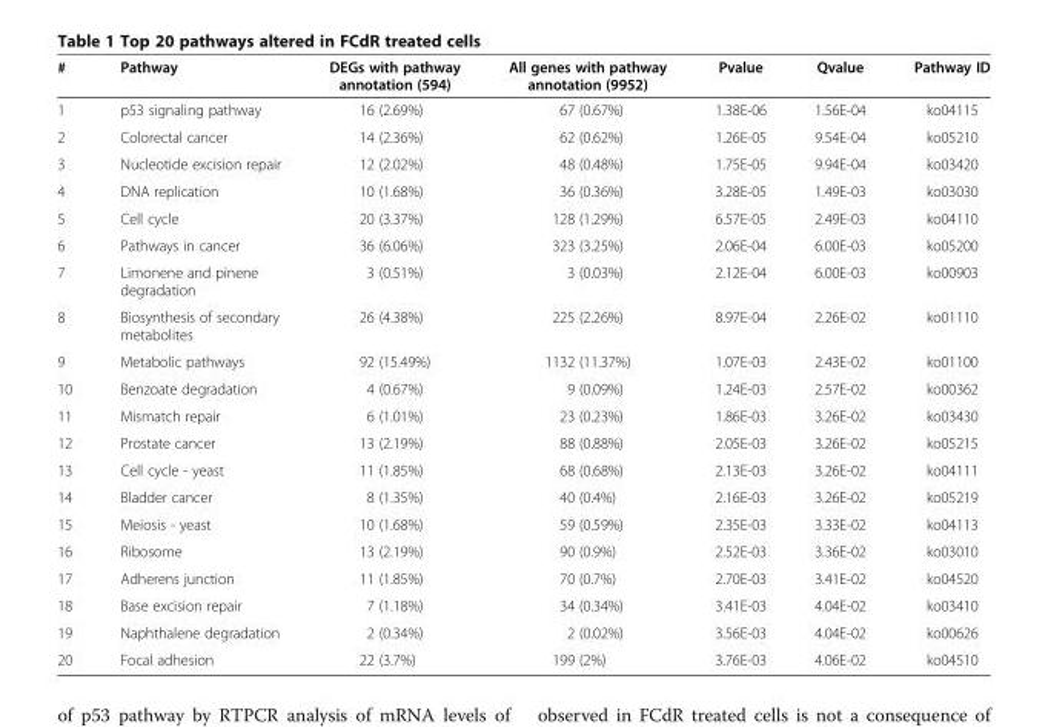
<table><thead><tr><td>#</td><td>Pathway</td><td>DEGs with pathway annotation (594)</td><td>All genes with pathway annotation (9952)</td><td>Pvalue</td><td>Qvalue</td><td>Pathway ID</td></tr></thead><tbody><tr><td>1</td><td>p53 signaling pathway</td><td>16 (2.69%)</td><td>67 (0.67%)</td><td>1.38E-06</td><td>1.56E-04</td><td>ko04115</td></tr><tr><td>2</td><td>Colorectal cancer</td><td>14 (2.36%)</td><td>62 (0.62%)</td><td>1.26E-05</td><td>9.54E-04</td><td>ko05210</td></tr><tr><td>3</td><td>Nucleotide excision repair</td><td>12 (2.02%)</td><td>48 (0.48%)</td><td>1.75E-05</td><td>9.94E-04</td><td>ko03420</td></tr><tr><td>4</td><td>DNA replication</td><td>10 (1.68%)</td><td>36 (0.36%)</td><td>3.28E-05</td><td>1.49E-03</td><td>ko03030</td></tr><tr><td>5</td><td>Cell cycle</td><td>20 (3.37%)</td><td>128 (1.29%)</td><td>6.57E-05</td><td>2.49E-03</td><td>ko04110</td></tr><tr><td>6</td><td>Pathways in cancer</td><td>36 (6.06%)</td><td>323 (3.25%)</td><td>2.06E-04</td><td>6.00E-03</td><td>ko05200</td></tr><tr><td>7</td><td>Limonene and pinene degradation</td><td>3 (0.51%)</td><td>3 (0.03%)</td><td>2.12E-04</td><td>6.00E-03</td><td>ko00903</td></tr><tr><td>8</td><td>Biosynthesis of secondary metabolites</td><td>26 (4.38%)</td><td>225 (2.26%)</td><td>8.97E-04</td><td>2.26E-02</td><td>ko01110</td></tr><tr><td>9</td><td>Metabolic pathways</td><td>92 (15.49%)</td><td>1132 (11.37%)</td><td>1.07E-03</td><td>2.43E-02</td><td>ko01100</td></tr><tr><td>10</td><td>Benzoate degradation</td><td>4 (0.67%)</td><td>9 (0.09%)</td><td>1.24E-03</td><td>2.57E-02</td><td>ko00362</td></tr><tr><td>11</td><td>Mismatch repair</td><td>6 (1.01%)</td><td>23 (0.23%)</td><td>1.86E-03</td><td>3.26E-02</td><td>ko03430</td></tr><tr><td>12</td><td>Prostate cancer</td><td>13 (2.19%)</td><td>88 (0.88%)</td><td>2.05E-03</td><td>3.26E-02</td><td>ko05215</td></tr><tr><td>13</td><td>Cell cycle - yeast</td><td>11 (1.85%)</td><td>68 (0.68%)</td><td>2.13E-03</td><td>3.26E-02</td><td>ko04111</td></tr><tr><td>14</td><td>Bladder cancer</td><td>8 (1.35%)</td><td>40 (0.4%)</td><td>2.16E-03</td><td>3.26E-02</td><td>ko05219</td></tr><tr><td>15</td><td>Meiosis - yeast</td><td>10 (1.68%)</td><td>59 (0.59%)</td><td>2.35E-03</td><td>3.33E-02</td><td>ko04113</td></tr><tr><td>16</td><td>Ribosome</td><td>13 (2.19%)</td><td>90 (0.9%)</td><td>2.52E-03</td><td>3.36E-02</td><td>ko03010</td></tr><tr><td>17</td><td>Adherens junction</td><td>11 (1.85%)</td><td>70 (0.7%)</td><td>2.70E-03</td><td>3.41E-02</td><td>ko04520</td></tr><tr><td>18</td><td>Base excision repair</td><td>7 (1.18%)</td><td>34 (0.34%)</td><td>3.41E-03</td><td>4.04E-02</td><td>ko03410</td></tr><tr><td>19</td><td>Naphthalene degradation</td><td>2 (0.34%)</td><td>2 (0.02%)</td><td>3.56E-03</td><td>4.04E-02</td><td>ko00626</td></tr><tr><td>20</td><td>Focal adhesion</td><td>22 (3.7%)</td><td>199 (2%)</td><td>3.76E-03</td><td>4.06E-02</td><td>ko04510</td></tr></tbody></table>